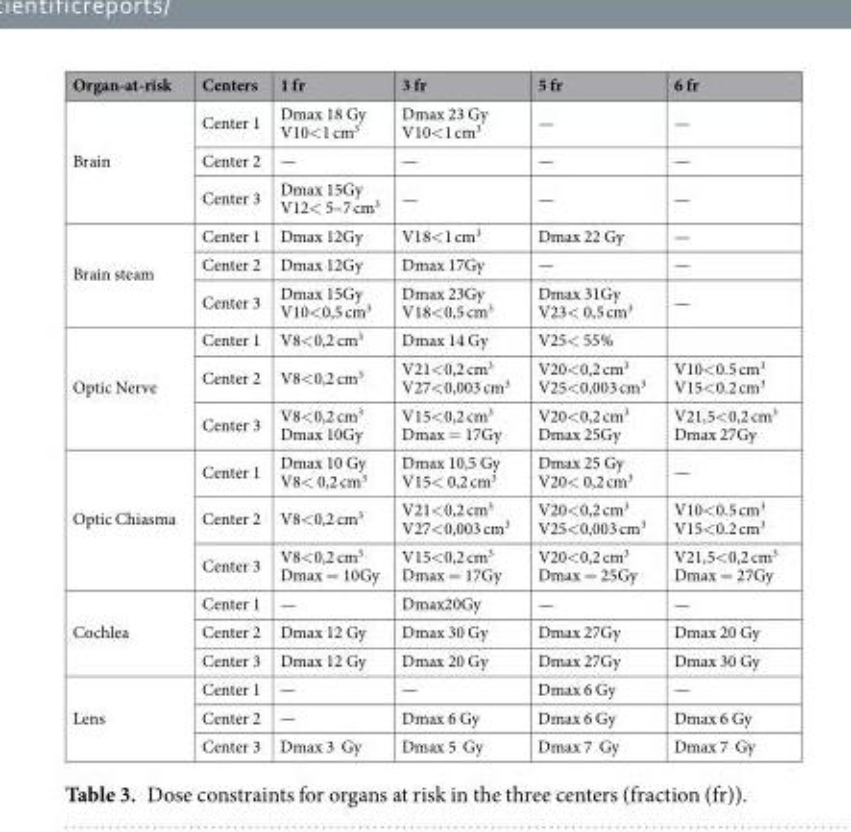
<table><thead><tr><td>Organ-at-risk</td><td>Centers</td><td>1 fr</td><td>3 fr</td><td>5 fr</td><td>6 fr</td></tr></thead><tbody><tr><td rowspan="3">Brain</td><td>Center 1</td><td>Dmax 18 Gy V10&lt;1 cm<sup>3</sup></td><td>Dmax 23 Gy V10&lt;1 cm<sup>3</sup></td><td>—</td><td>—</td></tr><tr><td>Center 2</td><td>—</td><td>—</td><td>—</td><td>—</td></tr><tr><td>Center 3</td><td>Dmax 15Gy V12&lt; 5–7 cm<sup>3</sup></td><td>—</td><td>—</td><td>—</td></tr><tr><td rowspan="3">Brain steam</td><td>Center 1</td><td>Dmax 12Gy</td><td>V18&lt;1 cm<sup>3</sup></td><td>Dmax 22 Gy</td><td>—</td></tr><tr><td>Center 2</td><td>Dmax 12Gy</td><td>Dmax 17Gy</td><td>—</td><td>—</td></tr><tr><td>Center 3</td><td>Dmax 15Gy V10&lt;0,5 cm<sup>3</sup></td><td>Dmax 23Gy V18&lt;0,5 cm<sup>3</sup></td><td>Dmax 31Gy V23&lt; 0,5 cm<sup>3</sup></td><td>—</td></tr><tr><td rowspan="3">Optic Nerve</td><td>Center 1</td><td>V8&lt;0,2 cm<sup>3</sup></td><td>Dmax 14 Gy</td><td>V25&lt; 55%</td><td></td></tr><tr><td>Center 2</td><td>V8&lt;0,2 cm<sup>3</sup></td><td>V21&lt;0,2 cm<sup>3</sup> V27&lt;0,003 cm<sup>3</sup></td><td>V20&lt;0,2 cm<sup>3</sup> V25&lt;0,003 cm<sup>3</sup></td><td>V10&lt;0.5 cm<sup>3</sup> V15&lt;0.2 cm<sup>3</sup></td></tr><tr><td>Center 3</td><td>V8&lt;0,2 cm<sup>3</sup> Dmax 10Gy</td><td>V15&lt;0,2 cm<sup>3</sup> Dmax = 17Gy</td><td>V20&lt;0,2 cm<sup>3</sup> Dmax 25Gy</td><td>V21,5&lt;0,2 cm<sup>3</sup> Dmax 27Gy</td></tr><tr><td rowspan="3">Optic Chiasma</td><td>Center 1</td><td>Dmax 10 Gy V8&lt; 0,2 cm<sup>3</sup></td><td>Dmax 10,5 Gy V15&lt; 0,2 cm<sup>3</sup></td><td>Dmax 25 Gy V20&lt; 0,2 cm<sup>3</sup></td><td>—</td></tr><tr><td>Center 2</td><td>V8&lt;0,2 cm<sup>3</sup></td><td>V21&lt;0,2 cm<sup>3</sup> V27&lt;0,003 cm<sup>3</sup></td><td>V20&lt;0,2 cm<sup>3</sup> V25&lt;0,003 cm<sup>3</sup></td><td>V10&lt;0.5 cm<sup>3</sup> V15&lt;0.2 cm<sup>3</sup></td></tr><tr><td>Center 3</td><td>V8&lt;0,2 cm<sup>3</sup> Dmax = 10Gy</td><td>V15&lt;0,2 cm<sup>3</sup> Dmax = 17Gy</td><td>V20&lt;0,2 cm<sup>3</sup> Dmax = 25Gy</td><td>V21,5&lt;0,2 cm<sup>3</sup> Dmax = 27Gy</td></tr><tr><td rowspan="3">Cochlea</td><td>Center 1</td><td>—</td><td>Dmax20Gy</td><td>—</td><td>—</td></tr><tr><td>Center 2</td><td>Dmax 12 Gy</td><td>Dmax 30 Gy</td><td>Dmax 27Gy</td><td>Dmax 20 Gy</td></tr><tr><td>Center 3</td><td>Dmax 12 Gy</td><td>Dmax 20 Gy</td><td>Dmax 27Gy</td><td>Dmax 30 Gy</td></tr><tr><td rowspan="3">Lens</td><td>Center 1</td><td>—</td><td>—</td><td>Dmax 6 Gy</td><td>—</td></tr><tr><td>Center 2</td><td>—</td><td>Dmax 6 Gy</td><td>Dmax 6 Gy</td><td>Dmax 6 Gy</td></tr><tr><td>Center 3</td><td>Dmax 3 Gy</td><td>Dmax 5 Gy</td><td>Dmax 7 Gy</td><td>Dmax 7 Gy</td></tr></tbody></table>